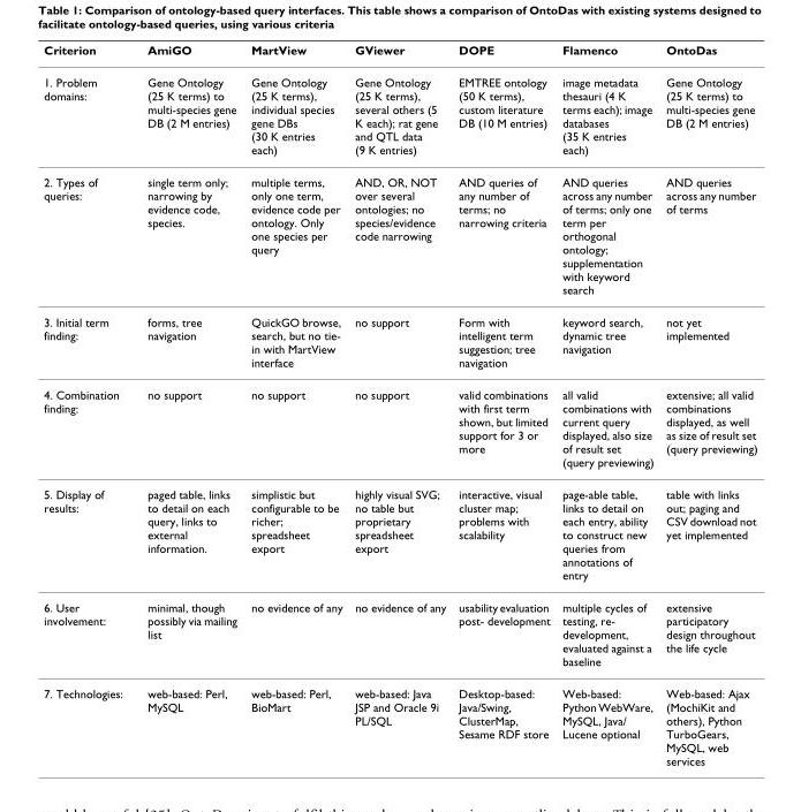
<table><thead><tr><td>Criterion</td><td>AmiGO</td><td>MartView</td><td>GViewer</td><td>DOPE</td><td>Flamenco</td><td>OntoDas</td></tr></thead><tbody><tr><td>1. Problem domains:</td><td>Gene Ontology (25 K terms) to multi-species gene DB (2 M entries)</td><td>Gene Ontology (25 K terms), individual species gene DBs (30 K entries each)</td><td>Gene Ontology (25 K terms), several others (5 K each); rat gene and QTL data (9 K entries)</td><td>EMTREE ontology (50 K terms), custom literature DB (10 M entries)</td><td>image metadata thesauri (4 K terms each); image databases (35 K entries each)</td><td>Gene Ontology (25 K terms) to multi-species gene DB (2 M entries)</td></tr><tr><td>2. Types of queries:</td><td>single term only; narrowing by evidence code, species.</td><td>multiple terms, only one term, evidence code per ontology. Only one species per query</td><td>AND, OR, NOT over several ontologies; no species/evidence code narrowing</td><td>AND queries of any number of terms; no narrowing criteria</td><td>AND queries across any number of terms; only one term per orthogonal ontology; supplementation with keyword search</td><td>AND queries across any number of terms</td></tr><tr><td>3. Initial term finding:</td><td>forms, tree navigation</td><td>QuickGO browse, search, but no tie- in with MartView interface</td><td>no support</td><td>Form with intelligent term suggestion; tree navigation</td><td>keyword search, dynamic tree navigation</td><td>not yet implemented</td></tr><tr><td>4. Combination finding:</td><td>no support</td><td>no support</td><td>no support</td><td>valid combinations with first term shown, but limited support for 3 or more</td><td>all valid combinations with current query displayed, also size of result set (query previewing)</td><td>extensive; all valid combinations displayed, as well as size of result set (query previewing)</td></tr><tr><td>5. Display of results:</td><td>paged table, links to detail on each query, links to external information.</td><td>simplistic but configurable to be richer; spreadsheet export</td><td>highly visual SVG; no table but proprietary spreadsheet export</td><td>interactive, visual cluster map; problems with scalability</td><td>page-able table, links to detail on each entry, ability to construct new queries from annotations of entry</td><td>table with links out; paging and CSV download not yet implemented</td></tr><tr><td>6. User involvement:</td><td>minimal, though possibly via mailing list</td><td>no evidence of any</td><td>no evidence of any</td><td>usability evaluation post- development</td><td>multiple cycles of testing, re- development, evaluated against a baseline</td><td>extensive participatory design throughout the life cycle</td></tr><tr><td>7. Technologies:</td><td>web-based: Perl, MySQL</td><td>web-based: Perl, BioMart</td><td>web-based: Java JSP and Oracle 9i PL/SQL</td><td>Desktop-based: Java/Swing, ClusterMap, Sesame RDF store</td><td>Web-based: Python WebWare, MySQL, Java/ Lucene optional</td><td>Web-based: Ajax (MochiKit and others), Python TurboGears, MySQL, web services</td></tr></tbody></table>